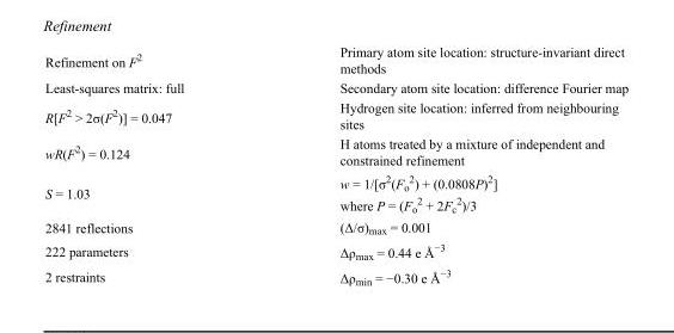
<table><tbody><tr><td>Refinement on F<sup>2</sup></td><td>Primary atom site location: structure-invariant direct methods</td></tr><tr><td>Least-squares matrix: full</td><td>Secondary atom site location: difference Fourier map</td></tr><tr><td>R[F<sup>2</sup> &gt; 2σ(F<sup>2</sup>)] = 0.047</td><td>Hydrogen site location: inferred from neighbouring sites</td></tr><tr><td>wR(F<sup>2</sup>) = 0.124</td><td>H atoms treated by a mixture of independent and constrained refinement</td></tr><tr><td>S = 1.03</td><td>w = 1/[σ<sup>2</sup>(F<sub>o</sub> <sup>2</sup>) + (0.0808P)<sup>2</sup>] where P = (F<sub>o</sub> <sup>2</sup> + 2F<sub>c</sub> <sup>2</sup>)/3</td></tr><tr><td>2841 reflections</td><td>(Δ/σ)<sub>max</sub> = 0.001</td></tr><tr><td>222 parameters</td><td>Δρ<sub>max</sub> = 0.44 e Å<sup>−3</sup></td></tr><tr><td>2 restraints</td><td>Δρ<sub>min</sub> = −0.30 e Å<sup>−3</sup></td></tr></tbody></table>